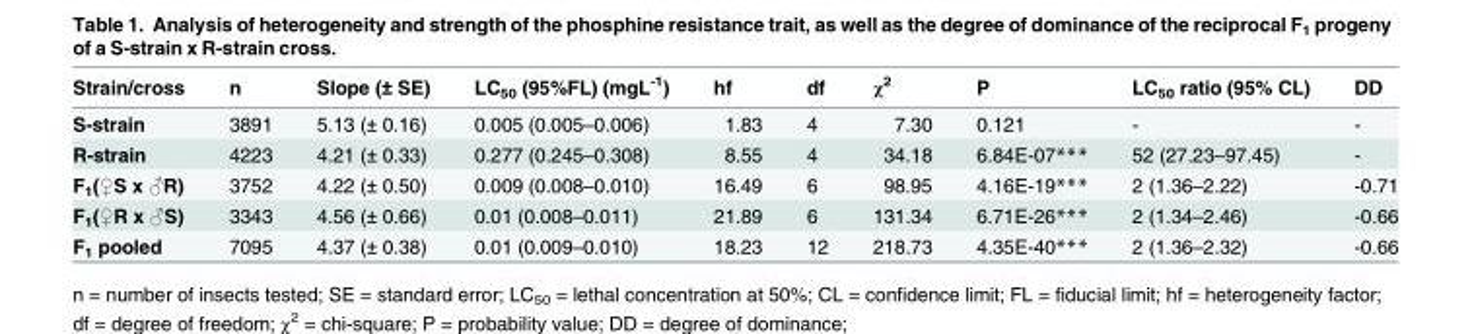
<table><thead><tr><td>Strain/cross</td><td>n</td><td>Slope (± SE)</td><td>LC<sub>50</sub> (95%FL) (mgL<sup>-1</sup>)</td><td>hf</td><td>df</td><td>χ<sup>2</sup></td><td>P</td><td>LC<sub>50</sub> ratio (95% CL)</td><td>DD</td></tr></thead><tbody><tr><td>S-strain</td><td>3891</td><td>5.13 (± 0.16)</td><td>0.005 (0.005–0.006)</td><td>1.83</td><td>4</td><td>7.30</td><td>0.121</td><td>-</td><td>-</td></tr><tr><td>R-strain</td><td>4223</td><td>4.21 (± 0.33)</td><td>0.277 (0.245–0.308)</td><td>8.55</td><td>4</td><td>34.18</td><td>6.84E-07***</td><td>52 (27.23–97.45)</td><td>-</td></tr><tr><td>F<sub>1</sub>(♀S x ♂R)</td><td>3752</td><td>4.22 (± 0.50)</td><td>0.009 (0.008–0.010)</td><td>16.49</td><td>6</td><td>98.95</td><td>4.16E-19***</td><td>2 (1.36–2.22)</td><td>-0.71</td></tr><tr><td>F<sub>1</sub>(♀R x ♂S)</td><td>3343</td><td>4.56 (± 0.66)</td><td>0.01 (0.008–0.011)</td><td>21.89</td><td>6</td><td>131.34</td><td>6.71E-26***</td><td>2 (1.34–2.46)</td><td>-0.66</td></tr><tr><td>F<sub>1</sub> pooled</td><td>7095</td><td>4.37 (± 0.38)</td><td>0.01 (0.009–0.010)</td><td>18.23</td><td>12</td><td>218.73</td><td>4.35E-40***</td><td>2 (1.36–2.32)</td><td>-0.66</td></tr></tbody></table>